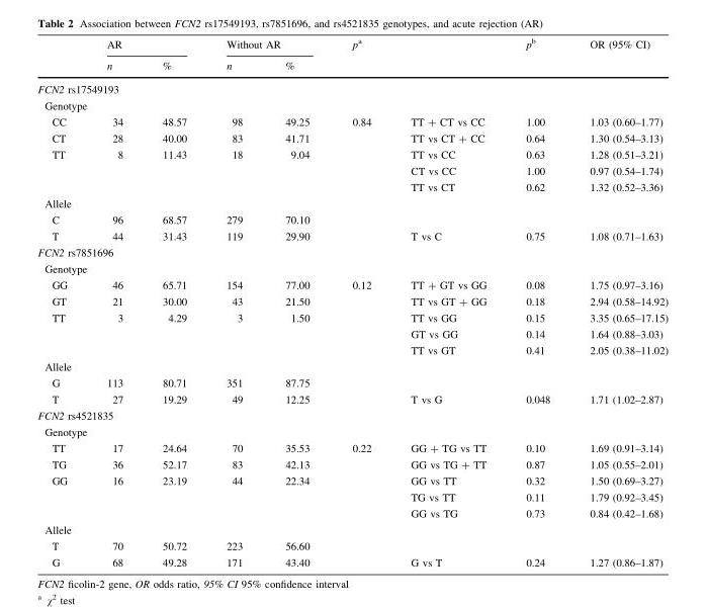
<table><thead><tr><td rowspan="2"></td><td colspan="2">AR</td><td colspan="2">Without AR</td><td rowspan="2">p<sup>a</sup></td><td rowspan="2"></td><td rowspan="2">p<sup>b</sup></td><td rowspan="2">OR (95% CI)</td></tr><tr><td>n</td><td>%</td><td>n</td><td>%</td></tr></thead><tbody><tr><td colspan="9">FCN2 rs17549193</td></tr><tr><td colspan="9">Genotype</td></tr><tr><td>CC</td><td>34</td><td>48.57</td><td>98</td><td>49.25</td><td rowspan="3">0.84</td><td>TT + CT vs CC</td><td>1.00</td><td>1.03 (0.60–1.77)</td></tr><tr><td>CT</td><td>28</td><td>40.00</td><td>83</td><td>41.71</td><td>TT vs CT + CC</td><td>0.64</td><td>1.30 (0.54–3.13)</td></tr><tr><td rowspan="3">TT</td><td>8</td><td>11.43</td><td>18</td><td>9.04</td><td>TT vs CC</td><td>0.63</td><td>1.28 (0.51–3.21)</td></tr><tr><td></td><td></td><td></td><td></td><td></td><td>CT vs CC</td><td>1.00</td><td>0.97 (0.54–1.74)</td></tr><tr><td></td><td></td><td></td><td></td><td></td><td>TT vs CT</td><td>0.62</td><td>1.32 (0.52–3.36)</td></tr><tr><td colspan="9">Allele</td></tr><tr><td>C</td><td>96</td><td>68.57</td><td>279</td><td>70.10</td><td></td><td></td><td></td><td></td></tr><tr><td>T</td><td>44</td><td>31.43</td><td>119</td><td>29.90</td><td></td><td>T vs C</td><td>0.75</td><td>1.08 (0.71–1.63)</td></tr><tr><td colspan="9">FCN2 rs7851696</td></tr><tr><td colspan="9">Genotype</td></tr><tr><td>GG</td><td>46</td><td>65.71</td><td>154</td><td>77.00</td><td rowspan="3">0.12</td><td>TT + GT vs GG</td><td>0.08</td><td>1.75 (0.97–3.16)</td></tr><tr><td>GT</td><td>21</td><td>30.00</td><td>43</td><td>21.50</td><td>TT vs GT + GG</td><td>0.18</td><td>2.94 (0.58–14.92)</td></tr><tr><td rowspan="3">TT</td><td>3</td><td>4.29</td><td>3</td><td>1.50</td><td>TT vs GG</td><td>0.15</td><td>3.35 (0.65–17.15)</td></tr><tr><td></td><td></td><td></td><td></td><td></td><td>GT vs GG</td><td>0.14</td><td>1.64 (0.88–3.03)</td></tr><tr><td></td><td></td><td></td><td></td><td></td><td>TT vs GT</td><td>0.41</td><td>2.05 (0.38–11.02)</td></tr><tr><td colspan="9">Allele</td></tr><tr><td>G</td><td>113</td><td>80.71</td><td>351</td><td>87.75</td><td></td><td></td><td></td><td></td></tr><tr><td>T</td><td>27</td><td>19.29</td><td>49</td><td>12.25</td><td></td><td>T vs G</td><td>0.048</td><td>1.71 (1.02–2.87)</td></tr><tr><td colspan="9">FCN2 rs4521835</td></tr><tr><td colspan="9">Genotype</td></tr><tr><td>TT</td><td>17</td><td>24.64</td><td>70</td><td>35.53</td><td rowspan="3">0.22</td><td>GG + TG vs TT</td><td>0.10</td><td>1.69 (0.91–3.14)</td></tr><tr><td>TG</td><td>36</td><td>52.17</td><td>83</td><td>42.13</td><td>GG vs TG + TT</td><td>0.87</td><td>1.05 (0.55–2.01)</td></tr><tr><td rowspan="3">GG</td><td>16</td><td>23.19</td><td>44</td><td>22.34</td><td>GG vs TT</td><td>0.32</td><td>1.50 (0.69–3.27)</td></tr><tr><td></td><td></td><td></td><td></td><td></td><td>TG vs TT</td><td>0.11</td><td>1.79 (0.92–3.45)</td></tr><tr><td></td><td></td><td></td><td></td><td></td><td>GG vs TG</td><td>0.73</td><td>0.84 (0.42–1.68)</td></tr><tr><td colspan="9">Allele</td></tr><tr><td>T</td><td>70</td><td>50.72</td><td>223</td><td>56.60</td><td></td><td></td><td></td><td></td></tr><tr><td>G</td><td>68</td><td>49.28</td><td>171</td><td>43.40</td><td></td><td>G vs T</td><td>0.24</td><td>1.27 (0.86–1.87)</td></tr></tbody></table>